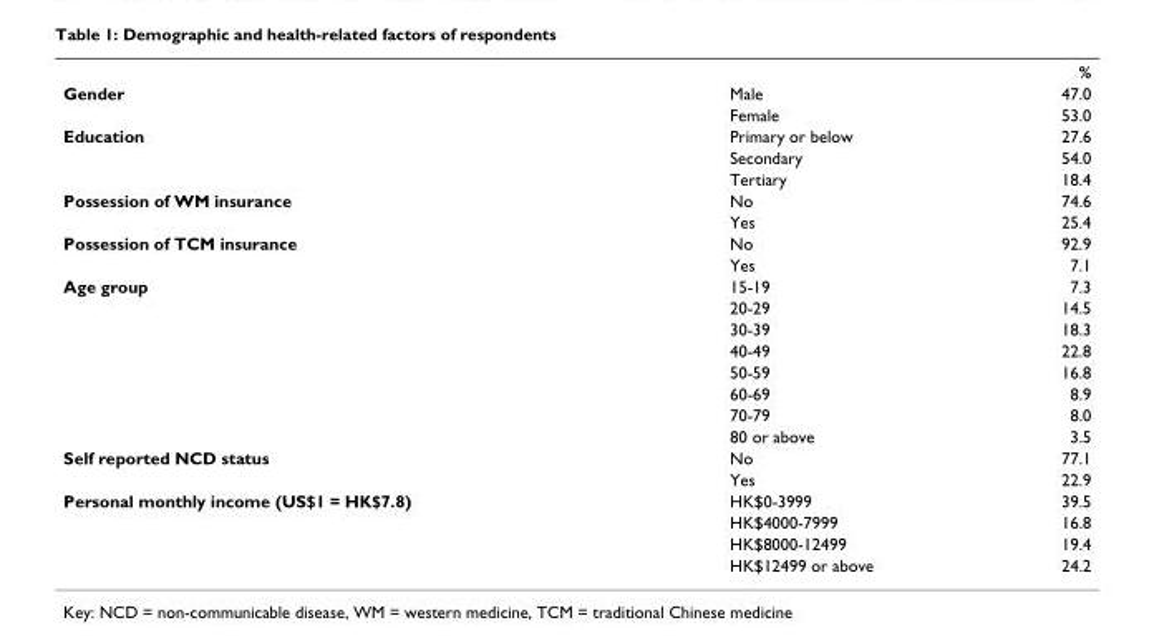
<table><thead><tr><td></td><td></td><td>%</td></tr></thead><tbody><tr><td rowspan="2">Gender</td><td>Male</td><td>47.0</td></tr><tr><td>Female</td><td>53.0</td></tr><tr><td rowspan="3">Education</td><td>Primary or below</td><td>27.6</td></tr><tr><td>Secondary</td><td>54.0</td></tr><tr><td>Tertiary</td><td>18.4</td></tr><tr><td rowspan="2">Possession of WM insurance</td><td>No</td><td>74.6</td></tr><tr><td>Yes</td><td>25.4</td></tr><tr><td rowspan="2">Possession of TCM insurance</td><td>No</td><td>92.9</td></tr><tr><td>Yes</td><td>7.1</td></tr><tr><td rowspan="8">Age group</td><td>15-19</td><td>7.3</td></tr><tr><td>20-29</td><td>14.5</td></tr><tr><td>30-39</td><td>18.3</td></tr><tr><td>40-49</td><td>22.8</td></tr><tr><td>50-59</td><td>16.8</td></tr><tr><td>60-69</td><td>8.9</td></tr><tr><td>70-79</td><td>8.0</td></tr><tr><td>80 or above</td><td>3.5</td></tr><tr><td rowspan="2">Self reported NCD status</td><td>No</td><td>77.1</td></tr><tr><td>Yes</td><td>22.9</td></tr><tr><td rowspan="4">Personal monthly income (US$1 = HK$7.8)</td><td>HK$0-3999</td><td>39.5</td></tr><tr><td>HK$4000-7999</td><td>16.8</td></tr><tr><td>HK$8000-12499</td><td>19.4</td></tr><tr><td>HK$12499 or above</td><td>24.2</td></tr></tbody></table>